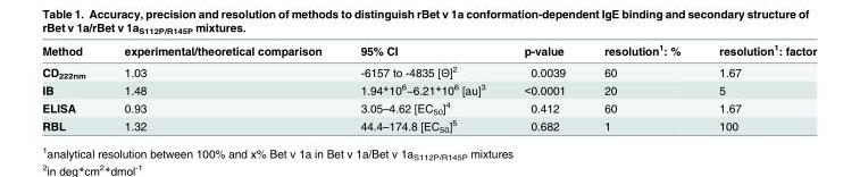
<table><thead><tr><td>Method</td><td>experimental/theoretical comparison</td><td>95% CI</td><td>p-value</td><td>resolution<sup>1</sup>: %</td><td>resolution<sup>1</sup>: factor</td></tr></thead><tbody><tr><td>CD<sub>222nm</sub></td><td>1.03</td><td>-6157 to -4835 [Θ]<sup>2</sup></td><td>0.0039</td><td>60</td><td>1.67</td></tr><tr><td>IB</td><td>1.48</td><td>1.94*10<sup>6</sup>−6.21*10<sup>6</sup> [au]<sup>3</sup></td><td>&lt;0.0001</td><td>20</td><td>5</td></tr><tr><td>ELISA</td><td>0.93</td><td>3.05–4.62 [EC<sub>50</sub>]<sup>4</sup></td><td>0.412</td><td>60</td><td>1.67</td></tr><tr><td>RBL</td><td>1.32</td><td>44.4–174.8 [EC<sub>50</sub>]<sup>5</sup></td><td>0.682</td><td>1</td><td>100</td></tr></tbody></table>